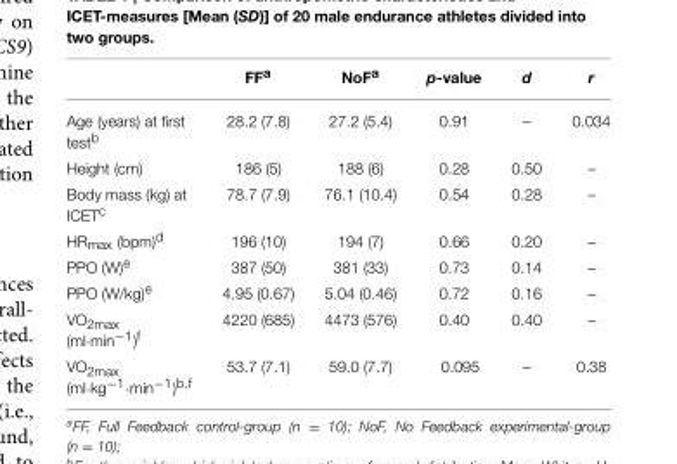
<table><thead><tr><td></td><td>FF<sup>a</sup></td><td>NoF<sup>a</sup></td><td>p-value</td><td>d</td><td>r</td></tr></thead><tbody><tr><td>Age (years) at first test<sup>b</sup></td><td>28.2 (7.8)</td><td>27.2 (5.4)</td><td>0.91</td><td>–</td><td>0.034</td></tr><tr><td>Height (cm)</td><td>186 (5)</td><td>188 (6)</td><td>0.28</td><td>0.50</td><td>–</td></tr><tr><td>Body mass (kg) at ICET<sup>c</sup></td><td>78.7 (7.9)</td><td>76.1 (10.4)</td><td>0.54</td><td>0.28</td><td>–</td></tr><tr><td>HR<sub>max</sub> (bpm)<sup>d</sup></td><td>196 (10)</td><td>194 (7)</td><td>0.66</td><td>0.20</td><td>–</td></tr><tr><td>PPO (W)<sup>e</sup></td><td>387 (50)</td><td>381 (33)</td><td>0.73</td><td>0.14</td><td>–</td></tr><tr><td>PPO (W/kg)<sup>e</sup></td><td>4.95 (0.67)</td><td>5.04 (0.46)</td><td>0.72</td><td>0.16</td><td>–</td></tr><tr><td>VO<sub>2max</sub> (ml·min<sup>−1</sup>)<sup>f</sup></td><td>4220 (685)</td><td>4473 (576)</td><td>0.40</td><td>0.40</td><td>–</td></tr><tr><td>VO<sub>2max</sub> (ml·kg<sup>−1</sup>·min<sup>−1</sup>)<sup>b</sup>,<sup>f</sup></td><td>53.7 (7.1)</td><td>59.0 (7.7)</td><td>0.095</td><td>–</td><td>0.38</td></tr></tbody></table>